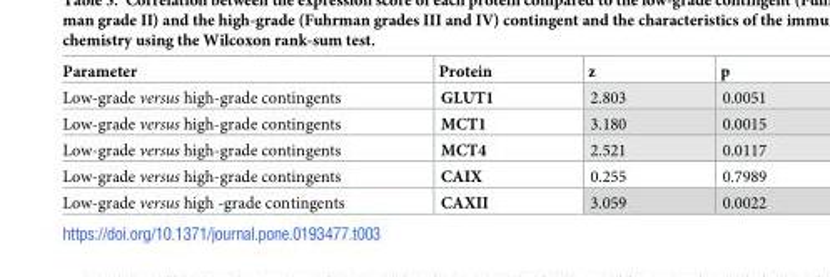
<table><thead><tr><td>Parameter</td><td>Protein</td><td>z</td><td>p</td></tr></thead><tbody><tr><td>Low-grade versus high-grade contingents</td><td>GLUT1</td><td>2.803</td><td>0.0051</td></tr><tr><td>Low-grade versus high-grade contingents</td><td>MCT1</td><td>3.180</td><td>0.0015</td></tr><tr><td>Low-grade versus high-grade contingents</td><td>MCT4</td><td>2.521</td><td>0.0117</td></tr><tr><td>Low-grade versus high-grade contingents</td><td>CAIX</td><td>0.255</td><td>0.7989</td></tr><tr><td>Low-grade versus high -grade contingents</td><td>CAXII</td><td>3.059</td><td>0.0022</td></tr></tbody></table>